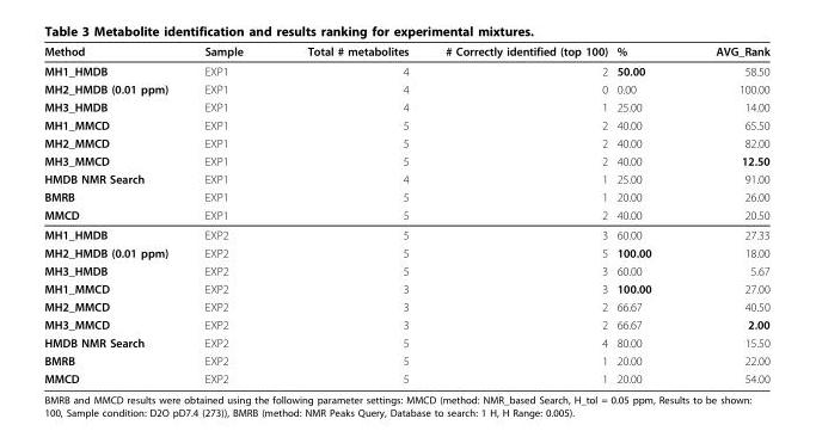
<table><thead><tr><td>Method</td><td>Sample</td><td>Total # metabolites</td><td># Correctly identified (top 100)</td><td>%</td><td>AVG_Rank</td></tr></thead><tbody><tr><td>MH1_HMDB</td><td>EXP1</td><td>4</td><td>2</td><td>50.00</td><td>58.50</td></tr><tr><td>MH2_HMDB (0.01 ppm)</td><td>EXP1</td><td>4</td><td>0</td><td>0.00</td><td>100.00</td></tr><tr><td>MH3_HMDB</td><td>EXP1</td><td>4</td><td>1</td><td>25.00</td><td>14.00</td></tr><tr><td>MH1_MMCD</td><td>EXP1</td><td>5</td><td>2</td><td>40.00</td><td>65.50</td></tr><tr><td>MH2_MMCD</td><td>EXP1</td><td>5</td><td>2</td><td>40.00</td><td>82.00</td></tr><tr><td>MH3_MMCD</td><td>EXP1</td><td>5</td><td>2</td><td>40.00</td><td>12.50</td></tr><tr><td>HMDB NMR Search</td><td>EXP1</td><td>4</td><td>1</td><td>25.00</td><td>91.00</td></tr><tr><td>BMRB</td><td>EXP1</td><td>5</td><td>1</td><td>20.00</td><td>26.00</td></tr><tr><td>MMCD</td><td>EXP1</td><td>5</td><td>2</td><td>40.00</td><td>20.50</td></tr><tr><td>MH1_HMDB</td><td>EXP2</td><td>5</td><td>3</td><td>60.00</td><td>27.33</td></tr><tr><td>MH2_HMDB (0.01 ppm)</td><td>EXP2</td><td>5</td><td>5</td><td>100.00</td><td>18.00</td></tr><tr><td>MH3_HMDB</td><td>EXP2</td><td>5</td><td>3</td><td>60.00</td><td>5.67</td></tr><tr><td>MH1_MMCD</td><td>EXP2</td><td>3</td><td>3</td><td>100.00</td><td>27.00</td></tr><tr><td>MH2_MMCD</td><td>EXP2</td><td>3</td><td>2</td><td>66.67</td><td>40.50</td></tr><tr><td>MH3_MMCD</td><td>EXP2</td><td>3</td><td>2</td><td>66.67</td><td>2.00</td></tr><tr><td>HMDB NMR Search</td><td>EXP2</td><td>5</td><td>4</td><td>80.00</td><td>15.50</td></tr><tr><td>BMRB</td><td>EXP2</td><td>5</td><td>1</td><td>20.00</td><td>22.00</td></tr><tr><td>MMCD</td><td>EXP2</td><td>5</td><td>1</td><td>20.00</td><td>54.00</td></tr></tbody></table>